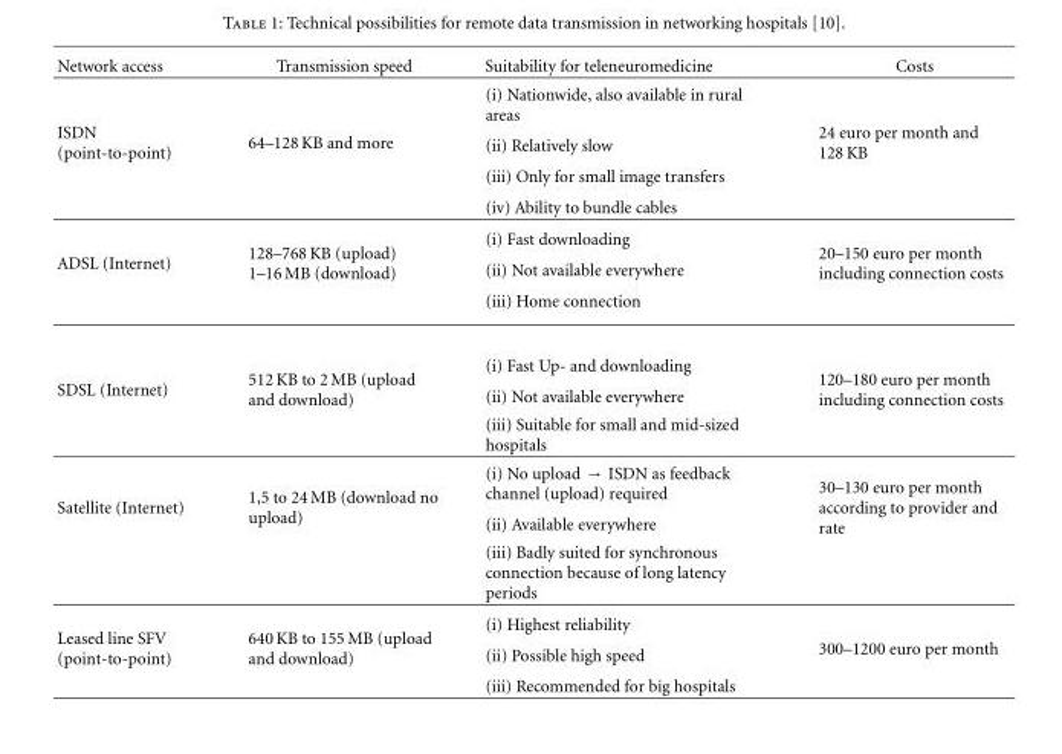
<table><thead><tr><td>Network access</td><td>Transmission speed</td><td>Suitability for teleneuromedicine</td><td>Costs</td></tr></thead><tbody><tr><td rowspan="4">ISDN (point-to-point)</td><td rowspan="4">64–128 KB and more</td><td>(i) Nationwide, also available in rural areas</td><td rowspan="4">24 euro per month and 128 KB</td></tr><tr><td>(ii) Relatively slow</td></tr><tr><td>(iii) Only for small image transfers</td></tr><tr><td>(iv) Ability to bundle cables</td></tr><tr><td rowspan="3">ADSL (Internet)</td><td rowspan="3">128–768 KB (upload) 1–16 MB (download)</td><td>(i) Fast downloading</td><td rowspan="3">20–150 euro per month including connection costs</td></tr><tr><td>(ii) Not available everywhere</td></tr><tr><td>(iii) Home connection</td></tr><tr><td rowspan="3">SDSL (Internet)</td><td rowspan="3">512 KB to 2 MB (upload and download)</td><td>(i) Fast Up- and downloading</td><td rowspan="3">120–180 euro per month including connection costs</td></tr><tr><td>(ii) Not available everywhere</td></tr><tr><td>(iii) Suitable for small and mid-sized hospitals</td></tr><tr><td rowspan="3">Satellite (Internet)</td><td rowspan="3">1,5 to 24 MB (download no upload)</td><td>(i) No upload → ISDN as feedback channel (upload) required</td><td rowspan="3">30–130 euro per month according to provider and rate</td></tr><tr><td>(ii) Available everywhere</td></tr><tr><td>(iii) Badly suited for synchronous connection because of long latency periods</td></tr><tr><td rowspan="3">Leased line SFV (point-to-point)</td><td rowspan="3">640 KB to 155 MB (upload and download)</td><td>(i) Highest reliability</td><td rowspan="3">300–1200 euro per month</td></tr><tr><td>(ii) Possible high speed</td></tr><tr><td>(iii) Recommended for big hospitals</td></tr></tbody></table>